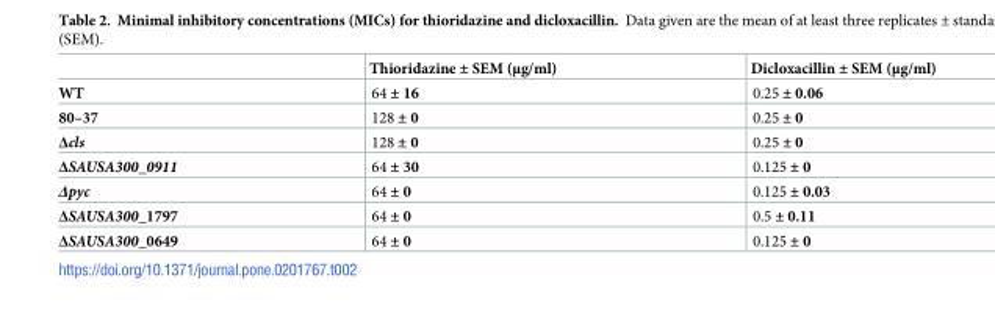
<table><thead><tr><td></td><td>Thioridazine ± SEM (μg/ml)</td><td>Dicloxacillin ± SEM (μg/ml)</td></tr></thead><tbody><tr><td>WT</td><td>64 ± 16</td><td>0.25 ± 0.06</td></tr><tr><td>80–37</td><td>128 ± 0</td><td>0.25 ± 0</td></tr><tr><td>Δcls</td><td>128 ± 0</td><td>0.25 ± 0</td></tr><tr><td>ΔSAUSA300_0911</td><td>64 ± 30</td><td>0.125 ± 0</td></tr><tr><td>Δpyc</td><td>64 ± 0</td><td>0.125 ± 0.03</td></tr><tr><td>ΔSAUSA300_1797</td><td>64 ± 0</td><td>0.5 ± 0.11</td></tr><tr><td>ΔSAUSA300_0649</td><td>64 ± 0</td><td>0.125 ± 0</td></tr></tbody></table>